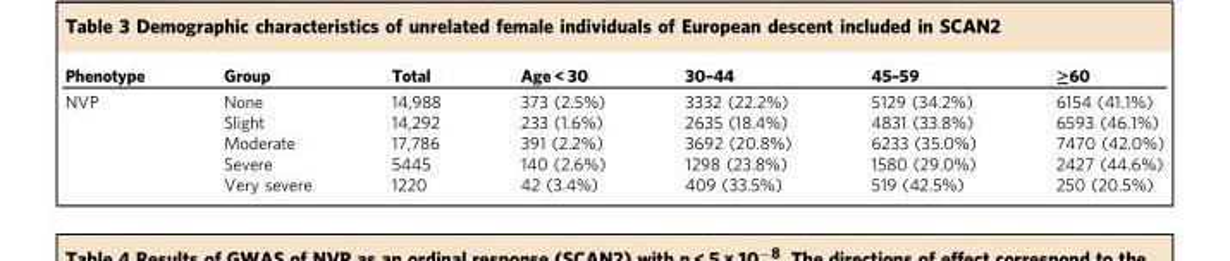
<table><thead><tr><td>Phenotype</td><td>Group</td><td>Total</td><td>Age &lt; 30</td><td>30–44</td><td>45–59</td><td>≥60</td></tr></thead><tbody><tr><td rowspan="5">NVP</td><td>None</td><td>14,988</td><td>373 (2.5%)</td><td>3332 (22.2%)</td><td>5129 (34.2%)</td><td>6154 (41.1%)</td></tr><tr><td>Slight</td><td>14,292</td><td>233 (1.6%)</td><td>2635 (18.4%)</td><td>4831 (33.8%)</td><td>6593 (46.1%)</td></tr><tr><td>Moderate</td><td>17,786</td><td>391 (2.2%)</td><td>3692 (20.8%)</td><td>6233 (35.0%)</td><td>7470 (42.0%)</td></tr><tr><td>Severe</td><td>5445</td><td>140 (2.6%)</td><td>1298 (23.8%)</td><td>1580 (29.0%)</td><td>2427 (44.6%)</td></tr><tr><td>Very severe</td><td>1220</td><td>42 (3.4%)</td><td>409 (33.5%)</td><td>519 (42.5%)</td><td>250 (20.5%)</td></tr></tbody></table>